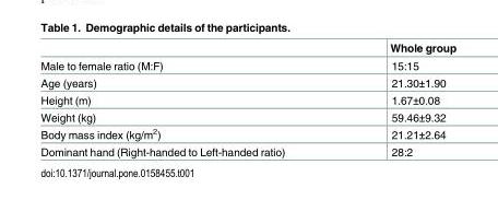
<table><thead><tr><td></td><td>Whole group</td></tr></thead><tbody><tr><td>Male to female ratio (M:F)</td><td>15:15</td></tr><tr><td>Age (years)</td><td>21.30±1.90</td></tr><tr><td>Height (m)</td><td>1.67±0.08</td></tr><tr><td>Weight (kg)</td><td>59.46±9.32</td></tr><tr><td>Body mass index (kg/m<sup>2</sup>)</td><td>21.21±2.64</td></tr><tr><td>Dominant hand (Right-handed to Left-handed ratio)</td><td>28:2</td></tr></tbody></table>